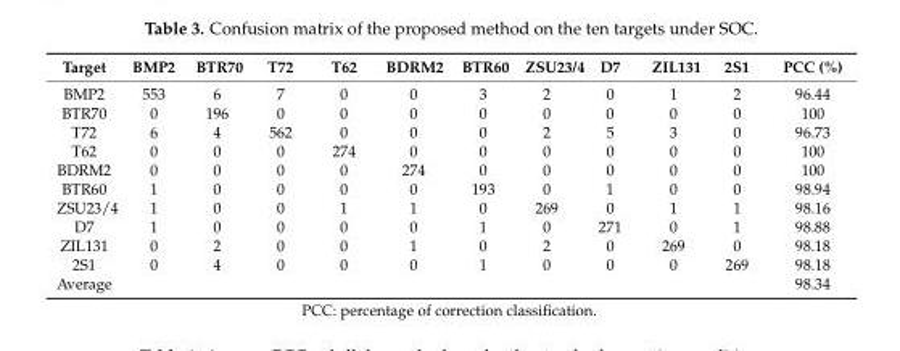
<table><thead><tr><td>Target</td><td>BMP2</td><td>BTR70</td><td>T72</td><td>T62</td><td>BDRM2</td><td>BTR60</td><td>ZSU23/4</td><td>D7</td><td>ZIL131</td><td>2S1</td><td>PCC (%)</td></tr></thead><tbody><tr><td>BMP2</td><td>553</td><td>6</td><td>7</td><td>0</td><td>0</td><td>3</td><td>2</td><td>0</td><td>1</td><td>2</td><td>96.44</td></tr><tr><td>BTR70</td><td>0</td><td>196</td><td>0</td><td>0</td><td>0</td><td>0</td><td>0</td><td>0</td><td>0</td><td>0</td><td>100</td></tr><tr><td>T72</td><td>6</td><td>4</td><td>562</td><td>0</td><td>0</td><td>0</td><td>2</td><td>5</td><td>3</td><td>0</td><td>96.73</td></tr><tr><td>T62</td><td>0</td><td>0</td><td>0</td><td>274</td><td>0</td><td>0</td><td>0</td><td>0</td><td>0</td><td>0</td><td>100</td></tr><tr><td>BDRM2</td><td>0</td><td>0</td><td>0</td><td>0</td><td>274</td><td>0</td><td>0</td><td>0</td><td>0</td><td>0</td><td>100</td></tr><tr><td>BTR60</td><td>1</td><td>0</td><td>0</td><td>0</td><td>0</td><td>193</td><td>0</td><td>1</td><td>0</td><td>0</td><td>98.94</td></tr><tr><td>ZSU23/4</td><td>1</td><td>0</td><td>0</td><td>1</td><td>1</td><td>0</td><td>269</td><td>0</td><td>1</td><td>1</td><td>98.16</td></tr><tr><td>D7</td><td>1</td><td>0</td><td>0</td><td>0</td><td>0</td><td>1</td><td>0</td><td>271</td><td>0</td><td>1</td><td>98.88</td></tr><tr><td>ZIL131</td><td>0</td><td>2</td><td>0</td><td>0</td><td>1</td><td>0</td><td>2</td><td>0</td><td>269</td><td>0</td><td>98.18</td></tr><tr><td>2S1</td><td>0</td><td>4</td><td>0</td><td>0</td><td>0</td><td>1</td><td>0</td><td>0</td><td>0</td><td>269</td><td>98.18</td></tr><tr><td>Average</td><td></td><td></td><td></td><td></td><td></td><td></td><td></td><td></td><td></td><td></td><td>98.34</td></tr></tbody></table>